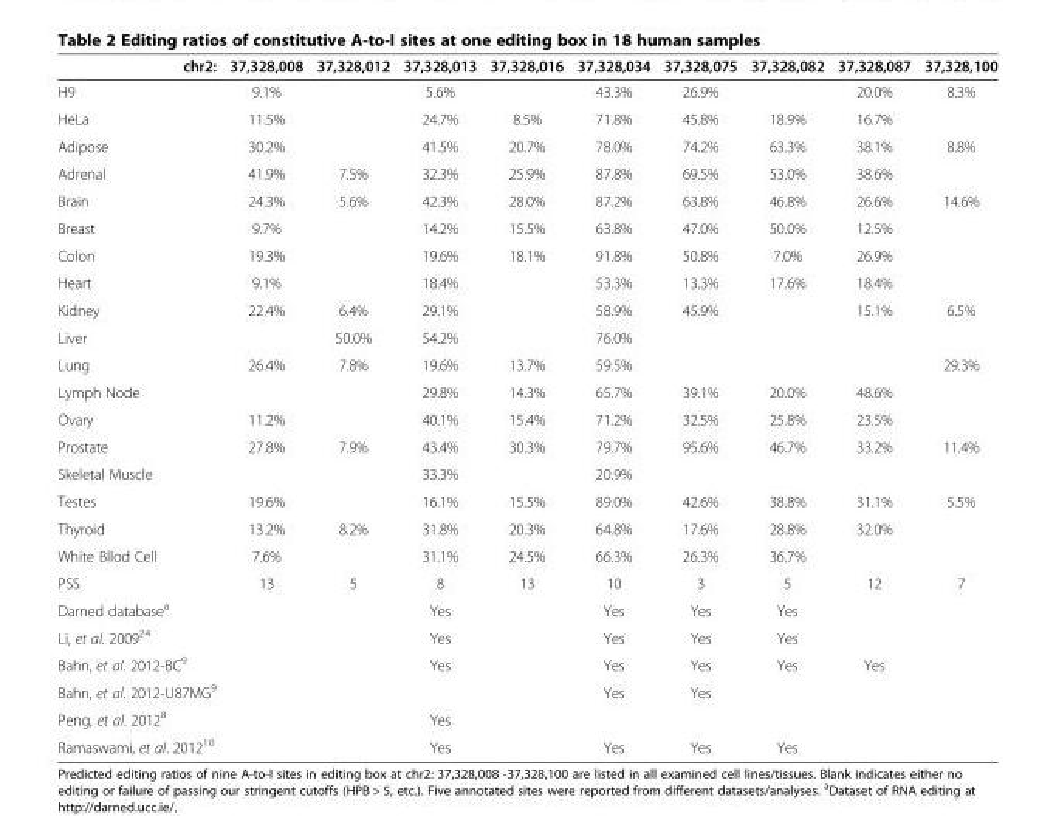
<table><thead><tr><td>chr2:</td><td>37,328,008</td><td>37,328,012</td><td>37,328,013</td><td>37,328,016</td><td>37,328,034</td><td>37,328,075</td><td>37,328,082</td><td>37,328,087</td><td>37,328,100</td></tr></thead><tbody><tr><td>H9</td><td>9.1%</td><td></td><td>5.6%</td><td></td><td>43.3%</td><td>26.9%</td><td></td><td>20.0%</td><td>8.3%</td></tr><tr><td>HeLa</td><td>11.5%</td><td></td><td>24.7%</td><td>8.5%</td><td>71.8%</td><td>45.8%</td><td>18.9%</td><td>16.7%</td><td></td></tr><tr><td>Adipose</td><td>30.2%</td><td></td><td>41.5%</td><td>20.7%</td><td>78.0%</td><td>74.2%</td><td>63.3%</td><td>38.1%</td><td>8.8%</td></tr><tr><td>Adrenal</td><td>41.9%</td><td>7.5%</td><td>32.3%</td><td>25.9%</td><td>87.8%</td><td>69.5%</td><td>53.0%</td><td>38.6%</td><td></td></tr><tr><td>Brain</td><td>24.3%</td><td>5.6%</td><td>42.3%</td><td>28.0%</td><td>87.2%</td><td>63.8%</td><td>46.8%</td><td>26.6%</td><td>14.6%</td></tr><tr><td>Breast</td><td>9.7%</td><td></td><td>14.2%</td><td>15.5%</td><td>63.8%</td><td>47.0%</td><td>50.0%</td><td>12.5%</td><td></td></tr><tr><td>Colon</td><td>19.3%</td><td></td><td>19.6%</td><td>18.1%</td><td>91.8%</td><td>50.8%</td><td>7.0%</td><td>26.9%</td><td></td></tr><tr><td>Heart</td><td>9.1%</td><td></td><td>18.4%</td><td></td><td>53.3%</td><td>13.3%</td><td>17.6%</td><td>18.4%</td><td></td></tr><tr><td>Kidney</td><td>22.4%</td><td>6.4%</td><td>29.1%</td><td></td><td>58.9%</td><td>45.9%</td><td></td><td>15.1%</td><td>6.5%</td></tr><tr><td>Liver</td><td></td><td>50.0%</td><td>54.2%</td><td></td><td>76.0%</td><td></td><td></td><td></td><td></td></tr><tr><td>Lung</td><td>26.4%</td><td>7.8%</td><td>19.6%</td><td>13.7%</td><td>59.5%</td><td></td><td></td><td></td><td>29.3%</td></tr><tr><td>Lymph Node</td><td></td><td></td><td>29.8%</td><td>14.3%</td><td>65.7%</td><td>39.1%</td><td>20.0%</td><td>48.6%</td><td></td></tr><tr><td>Ovary</td><td>11.2%</td><td></td><td>40.1%</td><td>15.4%</td><td>71.2%</td><td>32.5%</td><td>25.8%</td><td>23.5%</td><td></td></tr><tr><td>Prostate</td><td>27.8%</td><td>7.9%</td><td>43.4%</td><td>30.3%</td><td>79.7%</td><td>95.6%</td><td>46.7%</td><td>33.2%</td><td>11.4%</td></tr><tr><td>Skeletal Muscle</td><td></td><td></td><td>33.3%</td><td></td><td>20.9%</td><td></td><td></td><td></td><td></td></tr><tr><td>Testes</td><td>19.6%</td><td></td><td>16.1%</td><td>15.5%</td><td>89.0%</td><td>42.6%</td><td>38.8%</td><td>31.1%</td><td>5.5%</td></tr><tr><td>Thyroid</td><td>13.2%</td><td>8.2%</td><td>31.8%</td><td>20.3%</td><td>64.8%</td><td>17.6%</td><td>28.8%</td><td>32.0%</td><td></td></tr><tr><td>White Bllod Cell</td><td>7.6%</td><td></td><td>31.1%</td><td>24.5%</td><td>66.3%</td><td>26.3%</td><td>36.7%</td><td></td><td></td></tr><tr><td>PSS</td><td>13</td><td>5</td><td>8</td><td>13</td><td>10</td><td>3</td><td>5</td><td>12</td><td>7</td></tr><tr><td>Darned database<sup>a</sup></td><td></td><td></td><td>Yes</td><td></td><td>Yes</td><td>Yes</td><td>Yes</td><td></td><td></td></tr><tr><td>Li, et al. 2009<sup>24</sup></td><td></td><td></td><td>Yes</td><td></td><td>Yes</td><td>Yes</td><td>Yes</td><td></td><td></td></tr><tr><td>Bahn, et al. 2012-BC<sup>9</sup></td><td></td><td></td><td>Yes</td><td></td><td>Yes</td><td>Yes</td><td>Yes</td><td>Yes</td><td></td></tr><tr><td>Bahn, et al. 2012-U87MG<sup>9</sup></td><td></td><td></td><td></td><td></td><td>Yes</td><td>Yes</td><td></td><td></td><td></td></tr><tr><td>Peng, et al. 2012<sup>8</sup></td><td></td><td></td><td>Yes</td><td></td><td></td><td></td><td></td><td></td><td></td></tr><tr><td>Ramaswami, et al. 2012<sup>10</sup></td><td></td><td></td><td>Yes</td><td></td><td>Yes</td><td>Yes</td><td>Yes</td><td></td><td></td></tr></tbody></table>